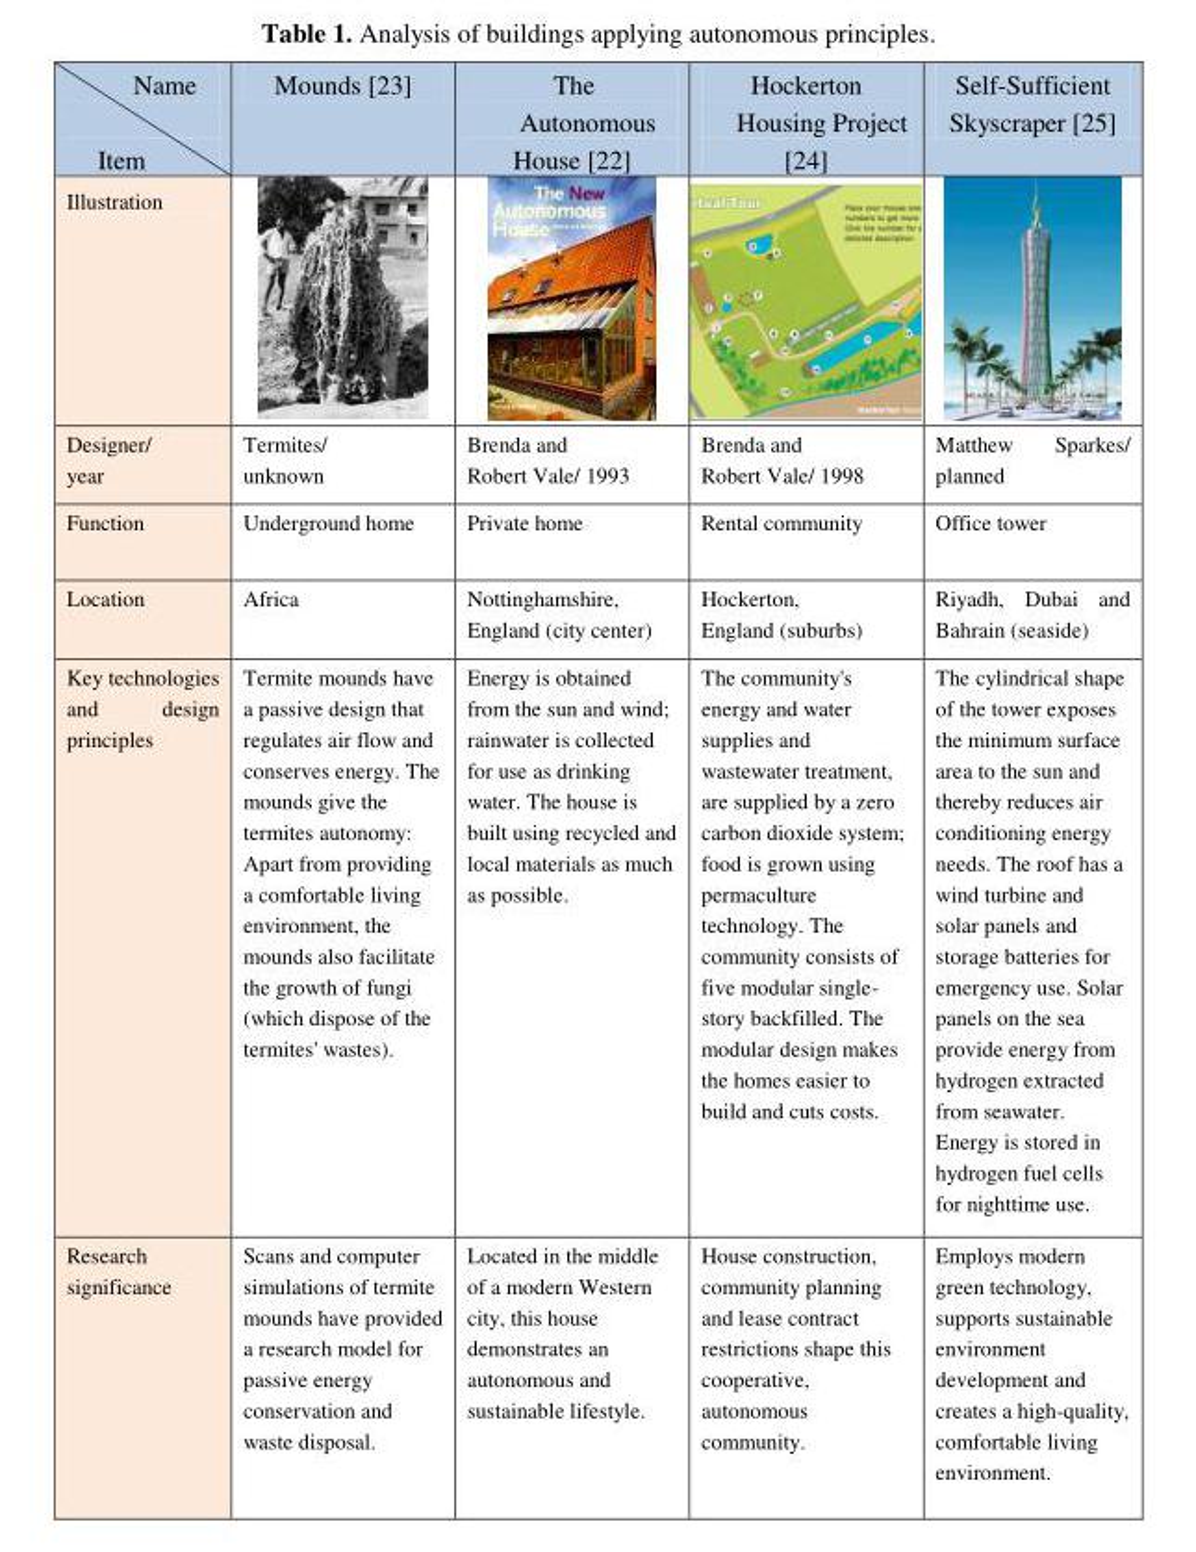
<table><thead><tr><td>Name Item</td><td>Mounds [23]</td><td>The Autonomous House [22]</td><td>Hockerton Housing Project [24]</td><td>Self-Sufficient Skyscraper [25]</td></tr></thead><tbody><tr><td colspan="5">Illustration</td></tr><tr><td>Designer/ year</td><td>Termites/ unknown</td><td>Brenda and Robert Vale/ 1993</td><td>Brenda and Robert Vale/ 1998</td><td>Matthew Sparkes/ planned</td></tr><tr><td>Function</td><td>Underground home</td><td>Private home</td><td>Rental community</td><td>Office tower</td></tr><tr><td>Location</td><td>Africa</td><td>Nottinghamshire, England (city center)</td><td>Hockerton, England (suburbs)</td><td>Riyadh, Dubai and Bahrain (seaside)</td></tr><tr><td>Key technologies and design principles</td><td>Termite mounds have a passive design that regulates air flow and conserves energy. The mounds give the termites autonomy: Apart from providing a comfortable living environment, the mounds also facilitate the growth of fungi (which dispose of the termites&#x27; wastes).</td><td>Energy is obtained from the sun and wind; rainwater is collected for use as drinking water. The house is built using recycled and local materials as much as possible.</td><td>The community&#x27;s energy and water supplies and wastewater treatment, are supplied by a zero carbon dioxide system; food is grown using permaculture technology. The community consists of five modular single- story backfilled. The modular design makes the homes easier to build and cuts costs.</td><td>The cylindrical shape of the tower exposes the minimum surface area to the sun and thereby reduces air conditioning energy needs. The roof has a wind turbine and solar panels and storage batteries for emergency use. Solar panels on the sea provide energy from hydrogen extracted from seawater. Energy is stored in hydrogen fuel cells for nighttime use.</td></tr><tr><td>Research significance</td><td>Scans and computer simulations of termite mounds have provided a research model for passive energy conservation and waste disposal.</td><td>Located in the middle of a modern Western city, this house demonstrates an autonomous and sustainable lifestyle.</td><td>House construction, community planning and lease contract restrictions shape this cooperative, autonomous community.</td><td>Employs modern green technology, supports sustainable environment development and creates a high-quality, comfortable living environment.</td></tr></tbody></table>